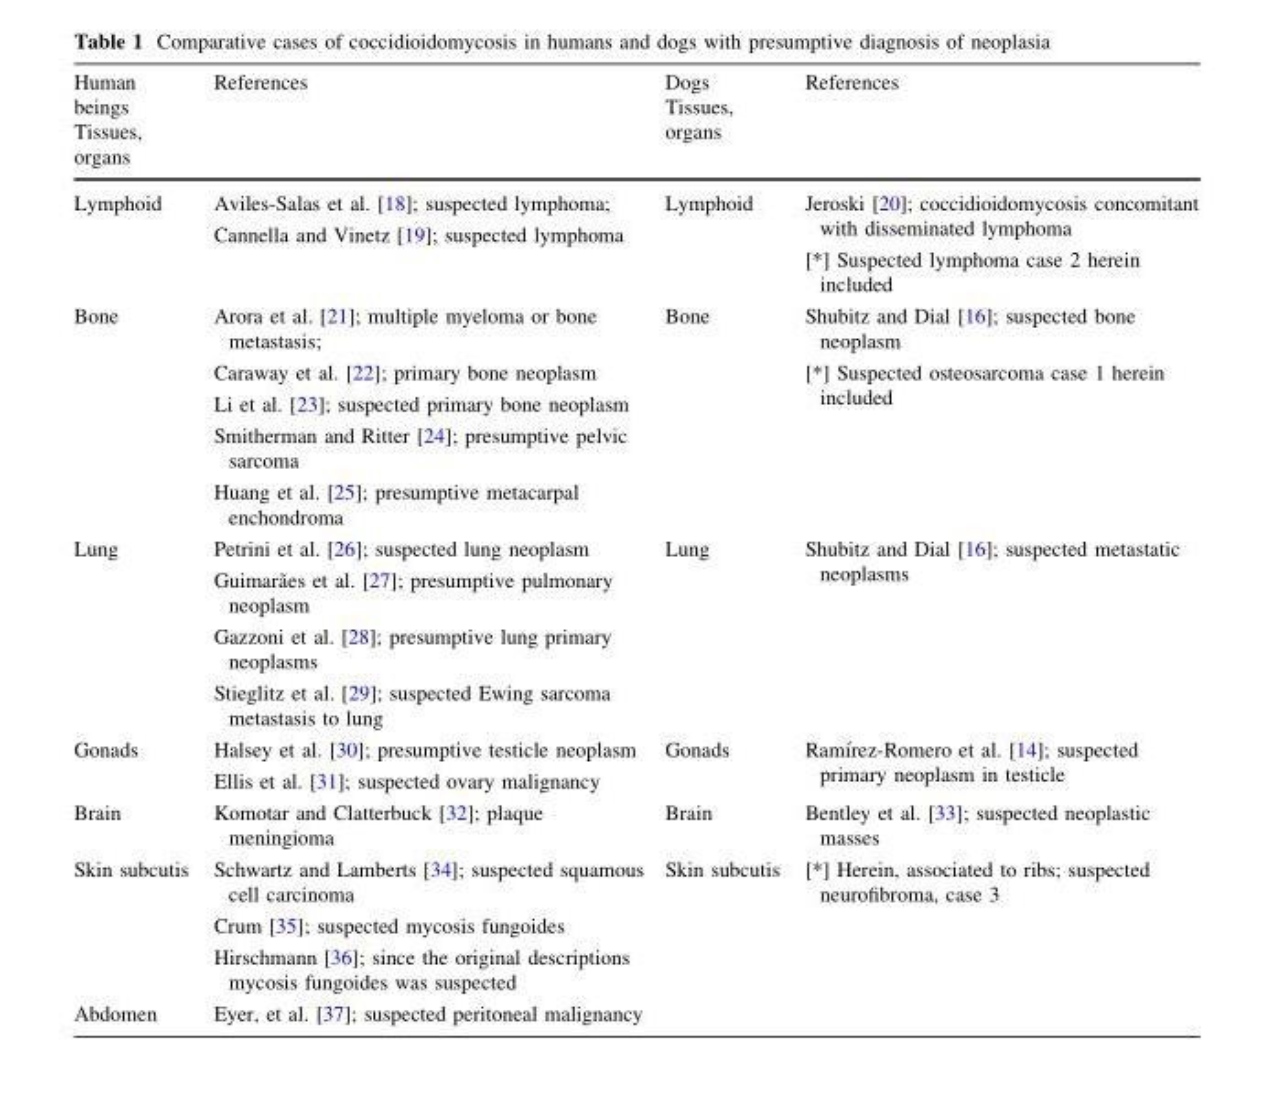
<table><thead><tr><td>Human beings Tissues, organs</td><td>References</td><td>Dogs Tissues, organs</td><td>References</td></tr></thead><tbody><tr><td>Lymphoid</td><td>Aviles-Salas et al. [18]; suspected lymphoma; Cannella and Vinetz [19]; suspected lymphoma</td><td>Lymphoid</td><td>Jeroski [20]; coccidioidomycosis concomitant with disseminated lymphoma [*] Suspected lymphoma case 2 herein included</td></tr><tr><td>Bone</td><td>Arora et al. [21]; multiple myeloma or bone metastasis; Caraway et al. [22]; primary bone neoplasm Li et al. [23]; suspected primary bone neoplasm Smitherman and Ritter [24]; presumptive pelvic sarcoma Huang et al. [25]; presumptive metacarpal enchondroma</td><td>Bone</td><td>Shubitz and Dial [16]; suspected bone neoplasm [*] Suspected osteosarcoma case 1 herein included</td></tr><tr><td>Lung</td><td>Petrini et al. [26]; suspected lung neoplasm Guimara˜es et al. [27]; presumptive pulmonary neoplasm Gazzoni et al. [28]; presumptive lung primary neoplasms Stieglitz et al. [29]; suspected Ewing sarcoma metastasis to lung</td><td>Lung</td><td>Shubitz and Dial [16]; suspected metastatic neoplasms</td></tr><tr><td>Gonads</td><td>Halsey et al. [30]; presumptive testicle neoplasm Ellis et al. [31]; suspected ovary malignancy</td><td>Gonads</td><td>Ramı´rez-Romero et al. [14]; suspected primary neoplasm in testicle</td></tr><tr><td>Brain</td><td>Komotar and Clatterbuck [32]; plaque meningioma</td><td>Brain</td><td>Bentley et al. [33]; suspected neoplastic masses</td></tr><tr><td>Skin subcutis</td><td>Schwartz and Lamberts [34]; suspected squamous cell carcinoma Crum [35]; suspected mycosis fungoides Hirschmann [36]; since the original descriptions mycosis fungoides was suspected</td><td>Skin subcutis</td><td>[*] Herein, associated to ribs; suspected neurofibroma, case 3</td></tr><tr><td>Abdomen</td><td>Eyer, et al. [37]; suspected peritoneal malignancy</td><td></td><td></td></tr></tbody></table>